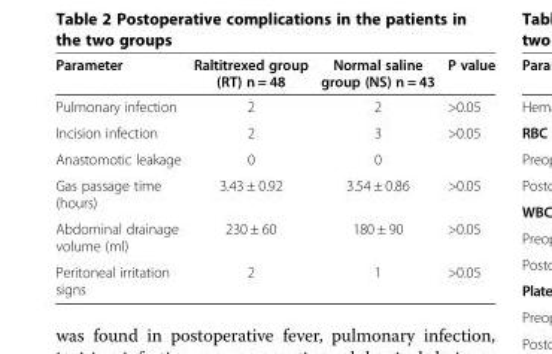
<table><thead><tr><td>Parameter</td><td>Raltitrexed group (RT) n = 48</td><td>Normal saline group (NS) n = 43</td><td>P value</td></tr></thead><tbody><tr><td>Pulmonary infection</td><td>2</td><td>2</td><td>&gt;0.05</td></tr><tr><td>Incision infection</td><td>2</td><td>3</td><td>&gt;0.05</td></tr><tr><td>Anastomotic leakage</td><td>0</td><td>0</td><td></td></tr><tr><td>Gas passage time (hours)</td><td>3.43 ± 0.92</td><td>3.54 ± 0.86</td><td>&gt;0.05</td></tr><tr><td>Abdominal drainage volume (ml)</td><td>230 ± 60</td><td>180 ± 90</td><td>&gt;0.05</td></tr><tr><td>Peritoneal irritation signs</td><td>2</td><td>1</td><td>&gt;0.05</td></tr></tbody></table>